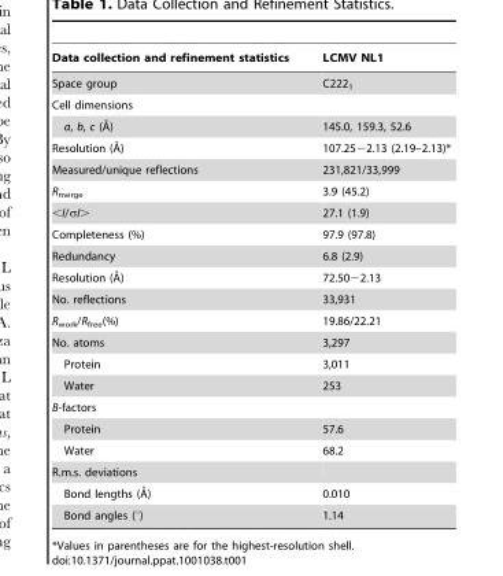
<table><thead><tr><td>Data collection and refinement statistics</td><td>LCMV NL1</td></tr></thead><tbody><tr><td>Space group</td><td>C222<sub>1</sub></td></tr><tr><td colspan="2">Cell dimensions</td></tr><tr><td>a, b, c (A˚)</td><td>145.0, 159.3, 52.6</td></tr><tr><td>Resolution (A˚)</td><td>107.25−2.13 (2.19–2.13)*</td></tr><tr><td>Measured/unique reflections</td><td>231,821/33,999</td></tr><tr><td>R<sub>merge</sub></td><td>3.9 (45.2)</td></tr><tr><td>&lt;I/σI&gt;</td><td>27.1 (1.9)</td></tr><tr><td>Completeness (%)</td><td>97.9 (97.8)</td></tr><tr><td>Redundancy</td><td>6.8 (2.9)</td></tr><tr><td>Resolution (A˚)</td><td>72.50−2.13</td></tr><tr><td>No. reflections</td><td>33,931</td></tr><tr><td>R<sub>work</sub>/R<sub>free</sub>(%)</td><td>19.86/22.21</td></tr><tr><td>No. atoms</td><td>3,297</td></tr><tr><td>Protein</td><td>3,011</td></tr><tr><td>Water</td><td>253</td></tr><tr><td colspan="2">B-factors</td></tr><tr><td>Protein</td><td>57.6</td></tr><tr><td>Water</td><td>68.2</td></tr><tr><td colspan="2">R.m.s. deviations</td></tr><tr><td>Bond lengths (A˚)</td><td>0.010</td></tr><tr><td>Bond angles (°)</td><td>1.14</td></tr></tbody></table>